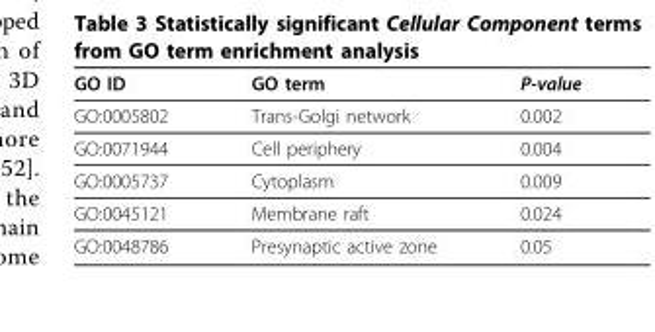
<table><thead><tr><td>GO ID</td><td>GO term</td><td>P-value</td></tr></thead><tbody><tr><td>GO:0005802</td><td>Trans-Golgi network</td><td>0.002</td></tr><tr><td>GO:0071944</td><td>Cell periphery</td><td>0.004</td></tr><tr><td>GO:0005737</td><td>Cytoplasm</td><td>0.009</td></tr><tr><td>GO:0045121</td><td>Membrane raft</td><td>0.024</td></tr><tr><td>GO:0048786</td><td>Presynaptic active zone</td><td>0.05</td></tr></tbody></table>